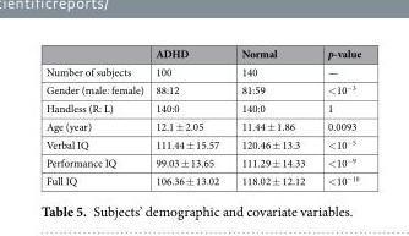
<table><thead><tr><td></td><td>ADHD</td><td>Normal</td><td>p-value</td></tr></thead><tbody><tr><td>Number of subjects</td><td>100</td><td>140</td><td>—</td></tr><tr><td>Gender (male: female)</td><td>88:12</td><td>81:59</td><td>&lt;10<sup>−3</sup></td></tr><tr><td>Handless (R: L)</td><td>140:0</td><td>140:0</td><td>1</td></tr><tr><td>Age (year)</td><td>12.1 ± 2.05</td><td>11.44 ± 1.86</td><td>0.0093</td></tr><tr><td>Verbal IQ</td><td>111.44 ± 15.57</td><td>120.46 ± 13.3</td><td>&lt;10<sup>−5</sup></td></tr><tr><td>Performance IQ</td><td>99.03 ± 13.65</td><td>111.29 ± 14.33</td><td>&lt;10<sup>−9</sup></td></tr><tr><td>Full IQ</td><td>106.36 ± 13.02</td><td>118.02 ± 12.12</td><td>&lt;10<sup>−10</sup></td></tr></tbody></table>